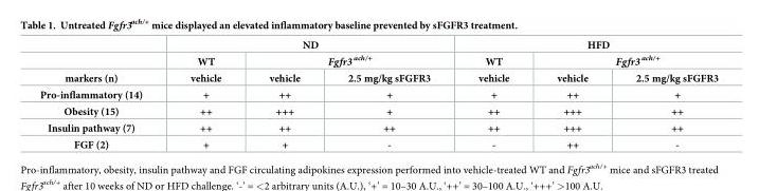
<table><thead><tr><td rowspan="3">markers (n)</td><td colspan="3">ND</td><td colspan="3">HFD</td></tr><tr><td rowspan="2">WT vehicle</td><td colspan="2">Fgfr3 <sup>ach/+</sup></td><td rowspan="2">WT vehicle</td><td colspan="2">Fgfr3 <sup>ach/+</sup></td></tr><tr><td>vehicle</td><td>2.5 mg/kg sFGFR3</td><td>vehicle</td><td>2.5 mg/kg sFGFR3</td></tr></thead><tbody><tr><td>Pro-inflammatory (14)</td><td>+</td><td>++</td><td>+</td><td>+</td><td>++</td><td>+</td></tr><tr><td>Obesity (15)</td><td>++</td><td>+++</td><td>+</td><td>++</td><td>+++</td><td>++</td></tr><tr><td>Insulin pathway (7)</td><td>++</td><td>++</td><td>++</td><td>++</td><td>+++</td><td>++</td></tr><tr><td>FGF (2)</td><td>+</td><td>+</td><td>-</td><td>-</td><td>++</td><td>-</td></tr></tbody></table>